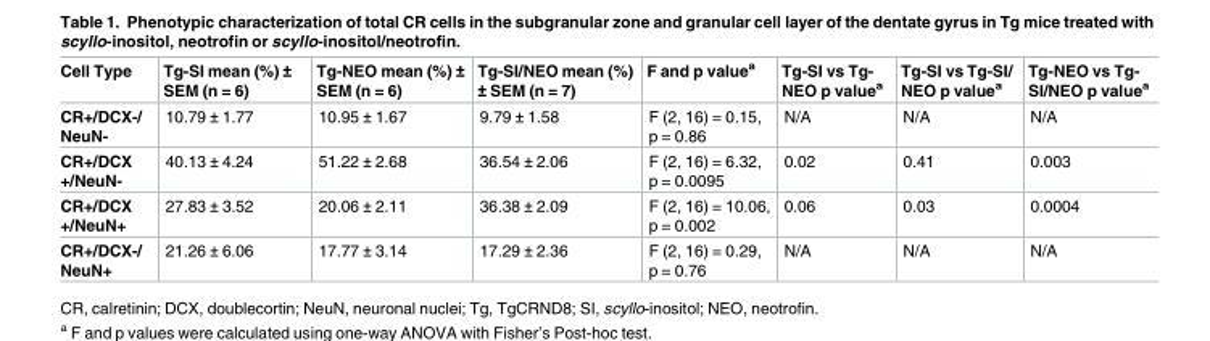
<table><thead><tr><td>Cell Type</td><td>Tg-SI mean (%) ± SEM (n = 6)</td><td>Tg-NEO mean (%) ± SEM (n = 6)</td><td>Tg-SI/NEO mean (%) ± SEM (n = 7)</td><td>F and p value<sup>a</sup></td><td>Tg-SI vs Tg- NEO p value<sup>a</sup></td><td>Tg-SI vs Tg-SI/ NEO p value<sup>a</sup></td><td>Tg-NEO vs Tg- SI/NEO p value<sup>a</sup></td></tr></thead><tbody><tr><td>CR+/DCX-/ NeuN-</td><td>10.79 ± 1.77</td><td>10.95 ± 1.67</td><td>9.79 ± 1.58</td><td>F (2, 16) = 0.15, p = 0.86</td><td>N/A</td><td>N/A</td><td>N/A</td></tr><tr><td>CR+/DCX +/NeuN-</td><td>40.13 ± 4.24</td><td>51.22 ± 2.68</td><td>36.54 ± 2.06</td><td>F (2, 16) = 6.32, p = 0.0095</td><td>0.02</td><td>0.41</td><td>0.003</td></tr><tr><td>CR+/DCX +/NeuN+</td><td>27.83 ± 3.52</td><td>20.06 ± 2.11</td><td>36.38 ± 2.09</td><td>F (2, 16) = 10.06, p = 0.002</td><td>0.06</td><td>0.03</td><td>0.0004</td></tr><tr><td>CR+/DCX-/ NeuN+</td><td>21.26 ± 6.06</td><td>17.77 ± 3.14</td><td>17.29 ± 2.36</td><td>F (2, 16) = 0.29, p = 0.76</td><td>N/A</td><td>N/A</td><td>N/A</td></tr></tbody></table>